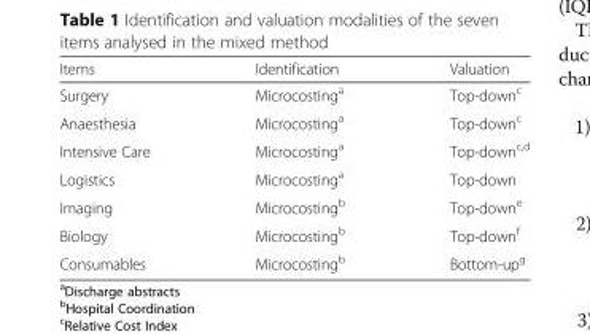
<table><thead><tr><td>Items</td><td>Identification</td><td>Valuation</td></tr></thead><tbody><tr><td>Surgery</td><td>Microcosting<sup>a</sup></td><td>Top-down<sup>c</sup></td></tr><tr><td>Anaesthesia</td><td>Microcosting<sup>a</sup></td><td>Top-down<sup>c</sup></td></tr><tr><td>Intensive Care</td><td>Microcosting<sup>a</sup></td><td>Top-down<sup>c,d</sup></td></tr><tr><td>Logistics</td><td>Microcosting<sup>a</sup></td><td>Top-down</td></tr><tr><td>Imaging</td><td>Microcosting<sup>b</sup></td><td>Top-down<sup>e</sup></td></tr><tr><td>Biology</td><td>Microcosting<sup>b</sup></td><td>Top-down<sup>f</sup></td></tr><tr><td>Consumables</td><td>Microcosting<sup>b</sup></td><td>Bottom-up<sup>g</sup></td></tr></tbody></table>